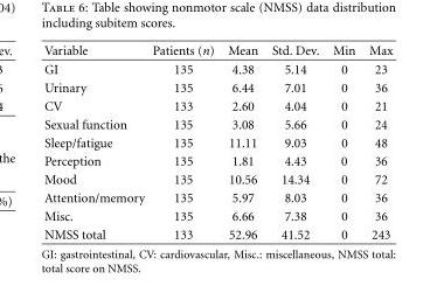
<table><thead><tr><td>Variable</td><td>Patients (n)</td><td>Mean</td><td>Std. Dev.</td><td>Min</td><td>Max</td></tr></thead><tbody><tr><td>GI</td><td>135</td><td>4.38</td><td>5.14</td><td>0</td><td>23</td></tr><tr><td>Urinary</td><td>135</td><td>6.44</td><td>7.01</td><td>0</td><td>36</td></tr><tr><td>CV</td><td>133</td><td>2.60</td><td>4.04</td><td>0</td><td>21</td></tr><tr><td>Sexual function</td><td>135</td><td>3.08</td><td>5.66</td><td>0</td><td>24</td></tr><tr><td>Sleep/fatigue</td><td>135</td><td>11.11</td><td>9.03</td><td>0</td><td>48</td></tr><tr><td>Perception</td><td>135</td><td>1.81</td><td>4.43</td><td>0</td><td>36</td></tr><tr><td>Mood</td><td>135</td><td>10.56</td><td>14.34</td><td>0</td><td>72</td></tr><tr><td>Attention/memory</td><td>135</td><td>5.97</td><td>8.03</td><td>0</td><td>36</td></tr><tr><td>Misc.</td><td>135</td><td>6.66</td><td>7.38</td><td>0</td><td>36</td></tr><tr><td>NMSS total</td><td>133</td><td>52.96</td><td>41.52</td><td>0</td><td>243</td></tr></tbody></table>